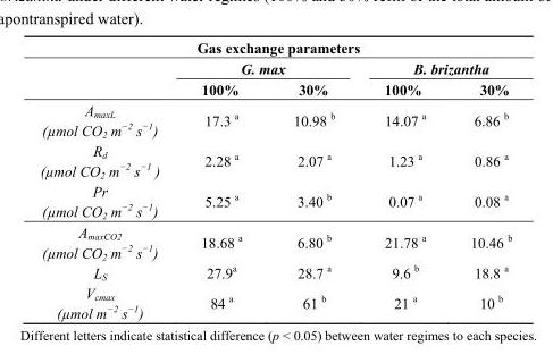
<table><thead><tr><td colspan="5">Gas exchange parameters</td></tr><tr><td rowspan="2"></td><td colspan="2">G. max</td><td colspan="2">B. brizantha</td></tr><tr><td>100%</td><td>30%</td><td>100%</td><td>30%</td></tr></thead><tbody><tr><td>A<sub>maxL</sub> (µmol CO<sub>2</sub> m<sup>−2</sup> s<sup>−1</sup>)</td><td>17.3 <sup>a</sup></td><td>10.98 <sup>b</sup></td><td>14.07 <sup>a</sup></td><td>6.86 <sup>b</sup></td></tr><tr><td>R<sub>d</sub> (µmol CO<sub>2</sub> m<sup>−2</sup> s<sup>−1</sup> )</td><td>2.28 <sup>a</sup></td><td>2.07 <sup>a</sup></td><td>1.23 <sup>a</sup></td><td>0.86 <sup>a</sup></td></tr><tr><td>Pr (µmol CO<sub>2</sub> m<sup>−2</sup> s<sup>−1</sup>)</td><td>5.25 <sup>a</sup></td><td>3.40 <sup>b</sup></td><td>0.07 <sup>a</sup></td><td>0.08 <sup>a</sup></td></tr><tr><td>A<sub>maxCO2</sub> (µmol CO<sub>2</sub> m<sup>−2</sup> s<sup>−1</sup>)</td><td>18.68 <sup>a</sup></td><td>6.80 <sup>b</sup></td><td>21.78 <sup>a</sup></td><td>10.46 <sup>b</sup></td></tr><tr><td>L<sub>S</sub></td><td>27.9<sup>a</sup></td><td>28.7 <sup>a</sup></td><td>9.6 <sup>b</sup></td><td>18.8 <sup>a</sup></td></tr><tr><td>V<sub>cmax</sub> (µmol m<sup>−2</sup> s<sup>−1</sup>)</td><td>84 <sup>a</sup></td><td>61 <sup>b</sup></td><td>21 <sup>a</sup></td><td>10 <sup>b</sup></td></tr></tbody></table>